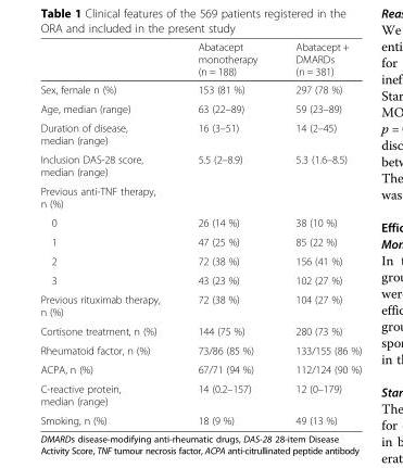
<table><thead><tr><td></td><td>Abatacept monotherapy (n = 188)</td><td>Abatacept + DMARDs (n = 381)</td></tr></thead><tbody><tr><td>Sex, female n (%)</td><td>153 (81 %)</td><td>297 (78 %)</td></tr><tr><td>Age, median (range)</td><td>63 (22–89)</td><td>59 (23–89)</td></tr><tr><td>Duration of disease, median (range)</td><td>16 (3–51)</td><td>14 (2–45)</td></tr><tr><td>Inclusion DAS-28 score, median (range)</td><td>5.5 (2–8.9)</td><td>5.3 (1.6–8.5)</td></tr><tr><td colspan="3">Previous anti-TNF therapy, n (%)</td></tr><tr><td>0</td><td>26 (14 %)</td><td>38 (10 %)</td></tr><tr><td>1</td><td>47 (25 %)</td><td>85 (22 %)</td></tr><tr><td>2</td><td>72 (38 %)</td><td>156 (41 %)</td></tr><tr><td>3</td><td>43 (23 %)</td><td>102 (27 %)</td></tr><tr><td>Previous rituximab therapy, n (%)</td><td>72 (38 %)</td><td>104 (27 %)</td></tr><tr><td>Cortisone treatment, n (%)</td><td>144 (75 %)</td><td>280 (73 %)</td></tr><tr><td>Rheumatoid factor, n (%)</td><td>73/86 (85 %)</td><td>133/155 (86 %)</td></tr><tr><td>ACPA, n (%)</td><td>67/71 (94 %)</td><td>112/124 (90 %)</td></tr><tr><td>C-reactive protein, median (range)</td><td>14 (0.2–157)</td><td>12 (0–179)</td></tr><tr><td>Smoking, n (%)</td><td>18 (9 %)</td><td>49 (13 %)</td></tr></tbody></table>